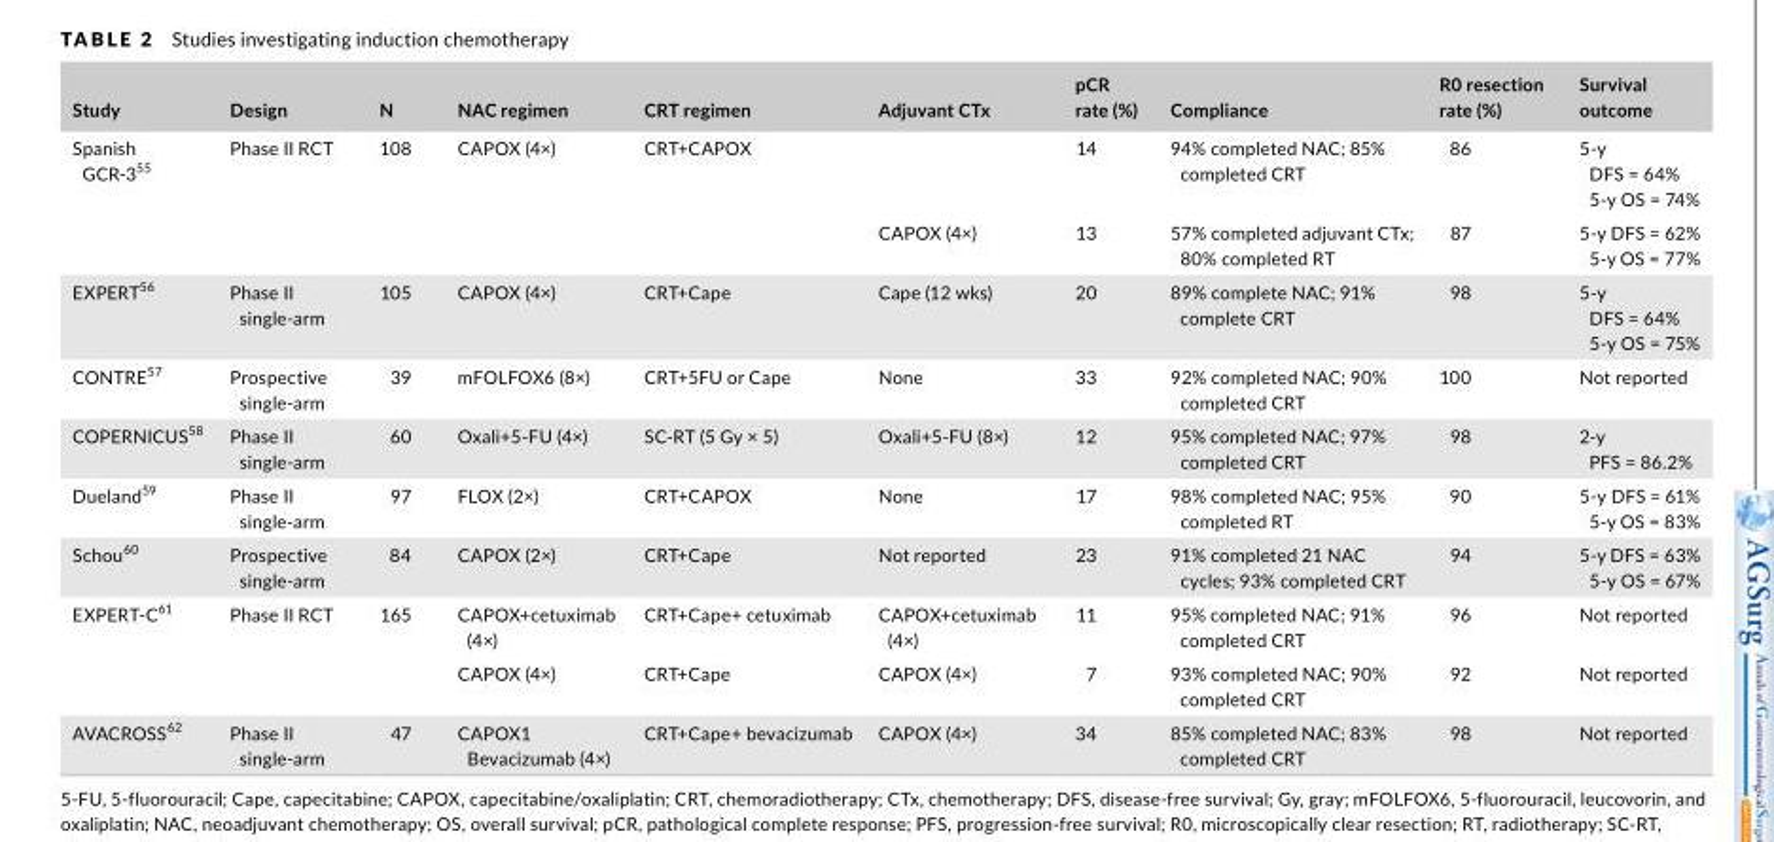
<table><thead><tr><td>Study</td><td>Design</td><td>N</td><td>NAC regimen</td><td>CRT regimen</td><td>Adjuvant CTx</td><td>pCR rate (%)</td><td>Compliance</td><td>R0 resection rate (%)</td><td>Survival outcome</td></tr></thead><tbody><tr><td rowspan="2">Spanish GCR‐3<sup>55</sup></td><td rowspan="2">Phase II RCT</td><td rowspan="2">108</td><td>CAPOX (4×)</td><td>CRT+CAPOX</td><td></td><td>14</td><td>94% completed NAC; 85% completed CRT</td><td>86</td><td>5‐y DFS = 64% 5‐y OS = 74%</td></tr><tr><td></td><td></td><td>CAPOX (4×)</td><td>13</td><td>57% completed adjuvant CTx; 80% completed RT</td><td>87</td><td>5‐y DFS = 62% 5‐y OS = 77%</td></tr><tr><td>EXPERT<sup>56</sup></td><td>Phase II single‐arm</td><td>105</td><td>CAPOX (4×)</td><td>CRT+Cape</td><td>Cape (12 wks)</td><td>20</td><td>89% complete NAC; 91% complete CRT</td><td>98</td><td>5‐y DFS = 64% 5‐y OS = 75%</td></tr><tr><td>CONTRE<sup>57</sup></td><td>Prospective single‐arm</td><td>39</td><td>mFOLFOX6 (8×)</td><td>CRT+5FU or Cape</td><td>None</td><td>33</td><td>92% completed NAC; 90% completed CRT</td><td>100</td><td>Not reported</td></tr><tr><td>COPERNICUS<sup>58</sup></td><td>Phase II single‐arm</td><td>60</td><td>Oxali+5‐FU (4×)</td><td>SC‐RT (5 Gy × 5)</td><td>Oxali+5‐FU (8×)</td><td>12</td><td>95% completed NAC; 97% completed CRT</td><td>98</td><td>2‐y PFS = 86.2%</td></tr><tr><td>Dueland<sup>59</sup></td><td>Phase II single‐arm</td><td>97</td><td>FLOX (2×)</td><td>CRT+CAPOX</td><td>None</td><td>17</td><td>98% completed NAC; 95% completed RT</td><td>90</td><td>5‐y DFS = 61% 5‐y OS = 83%</td></tr><tr><td>Schou<sup>60</sup></td><td>Prospective single‐arm</td><td>84</td><td>CAPOX (2×)</td><td>CRT+Cape</td><td>Not reported</td><td>23</td><td>91% completed 21 NAC cycles; 93% completed CRT</td><td>94</td><td>5‐y DFS = 63% 5‐y OS = 67%</td></tr><tr><td rowspan="2">EXPERT‐C<sup>61</sup></td><td rowspan="2">Phase II RCT</td><td rowspan="2">165</td><td>CAPOX+cetuximab (4×)</td><td>CRT+Cape+ cetuximab</td><td>CAPOX+cetuximab (4×)</td><td>11</td><td>95% completed NAC; 91% completed CRT</td><td>96</td><td>Not reported</td></tr><tr><td>CAPOX (4×)</td><td>CRT+Cape</td><td>CAPOX (4×)</td><td>7</td><td>93% completed NAC; 90% completed CRT</td><td>92</td><td>Not reported</td></tr><tr><td>AVACROSS<sup>62</sup></td><td>Phase II single‐arm</td><td>47</td><td>CAPOX1 Bevacizumab (4×)</td><td>CRT+Cape+ bevacizumab</td><td>CAPOX (4×)</td><td>34</td><td>85% completed NAC; 83% completed CRT</td><td>98</td><td>Not reported</td></tr></tbody></table>